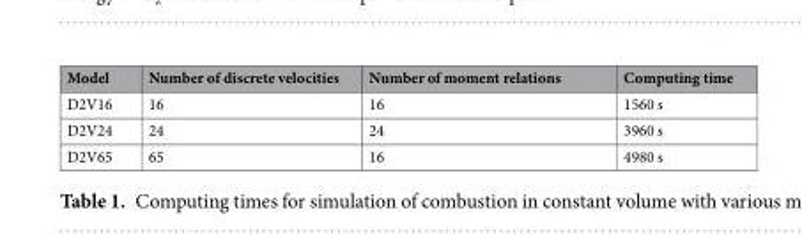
<table><thead><tr><td>Model</td><td>Number of discrete velocities</td><td>Number of moment relations</td><td>Computing time</td></tr></thead><tbody><tr><td>D2V16</td><td>16</td><td>16</td><td>1560 s</td></tr><tr><td>D2V24</td><td>24</td><td>24</td><td>3960 s</td></tr><tr><td>D2V65</td><td>65</td><td>16</td><td>4980 s</td></tr></tbody></table>